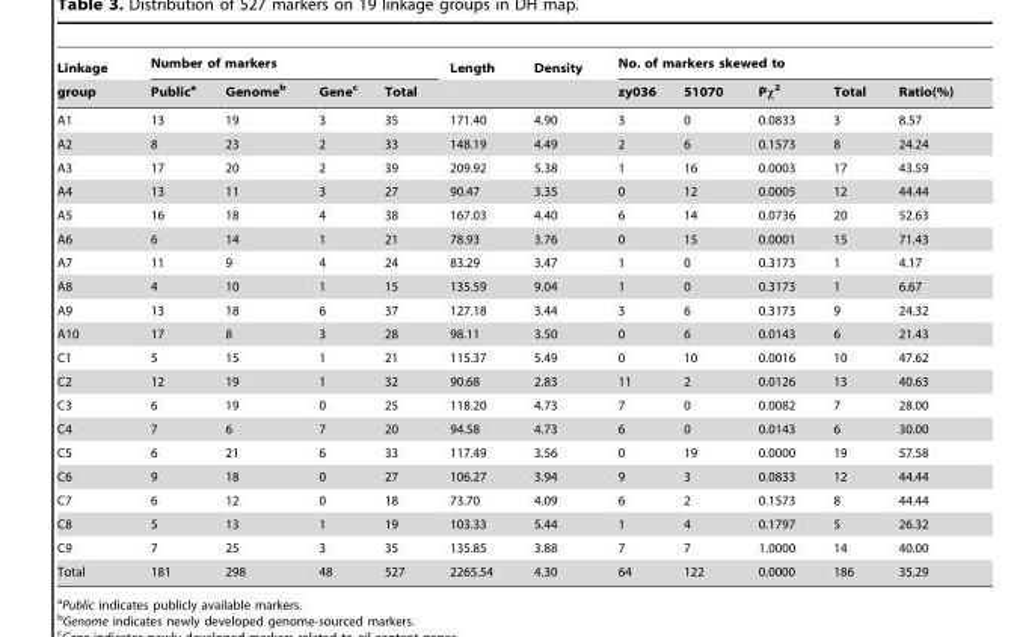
<table><thead><tr><td rowspan="2">Linkage group</td><td colspan="4">Number of markers</td><td rowspan="2">Length</td><td rowspan="2">Density</td><td colspan="5">No. of markers skewed to</td></tr><tr><td>Public<sup>a</sup></td><td>Genome<sup>b</sup></td><td>Gene<sup>c</sup></td><td>Total</td><td>zy036</td><td>51070</td><td>Pχ<sup>2</sup></td><td>Total</td><td>Ratio(%)</td></tr></thead><tbody><tr><td>A1</td><td>13</td><td>19</td><td>3</td><td>35</td><td>171.40</td><td>4.90</td><td>3</td><td>0</td><td>0.0833</td><td>3</td><td>8.57</td></tr><tr><td>A2</td><td>8</td><td>23</td><td>2</td><td>33</td><td>148.19</td><td>4.49</td><td>2</td><td>6</td><td>0.1573</td><td>8</td><td>24.24</td></tr><tr><td>A3</td><td>17</td><td>20</td><td>2</td><td>39</td><td>209.92</td><td>5.38</td><td>1</td><td>16</td><td>0.0003</td><td>17</td><td>43.59</td></tr><tr><td>A4</td><td>13</td><td>11</td><td>3</td><td>27</td><td>90.47</td><td>3.35</td><td>0</td><td>12</td><td>0.0005</td><td>12</td><td>44.44</td></tr><tr><td>A5</td><td>16</td><td>18</td><td>4</td><td>38</td><td>167.03</td><td>4.40</td><td>6</td><td>14</td><td>0.0736</td><td>20</td><td>52.63</td></tr><tr><td>A6</td><td>6</td><td>14</td><td>1</td><td>21</td><td>78.93</td><td>3.76</td><td>0</td><td>15</td><td>0.0001</td><td>15</td><td>71.43</td></tr><tr><td>A7</td><td>11</td><td>9</td><td>4</td><td>24</td><td>83.29</td><td>3.47</td><td>1</td><td>0</td><td>0.3173</td><td>1</td><td>4.17</td></tr><tr><td>A8</td><td>4</td><td>10</td><td>1</td><td>15</td><td>135.59</td><td>9.04</td><td>1</td><td>0</td><td>0.3173</td><td>1</td><td>6.67</td></tr><tr><td>A9</td><td>13</td><td>18</td><td>6</td><td>37</td><td>127.18</td><td>3.44</td><td>3</td><td>6</td><td>0.3173</td><td>9</td><td>24.32</td></tr><tr><td>A10</td><td>17</td><td>8</td><td>3</td><td>28</td><td>98.11</td><td>3.50</td><td>0</td><td>6</td><td>0.0143</td><td>6</td><td>21.43</td></tr><tr><td>C1</td><td>5</td><td>15</td><td>1</td><td>21</td><td>115.37</td><td>5.49</td><td>0</td><td>10</td><td>0.0016</td><td>10</td><td>47.62</td></tr><tr><td>C2</td><td>12</td><td>19</td><td>1</td><td>32</td><td>90.68</td><td>2.83</td><td>11</td><td>2</td><td>0.0126</td><td>13</td><td>40.63</td></tr><tr><td>C3</td><td>6</td><td>19</td><td>0</td><td>25</td><td>118.20</td><td>4.73</td><td>7</td><td>0</td><td>0.0082</td><td>7</td><td>28.00</td></tr><tr><td>C4</td><td>7</td><td>6</td><td>7</td><td>20</td><td>94.58</td><td>4.73</td><td>6</td><td>0</td><td>0.0143</td><td>6</td><td>30.00</td></tr><tr><td>C5</td><td>6</td><td>21</td><td>6</td><td>33</td><td>117.49</td><td>3.56</td><td>0</td><td>19</td><td>0.0000</td><td>19</td><td>57.58</td></tr><tr><td>C6</td><td>9</td><td>18</td><td>0</td><td>27</td><td>106.27</td><td>3.94</td><td>9</td><td>3</td><td>0.0833</td><td>12</td><td>44.44</td></tr><tr><td>C7</td><td>6</td><td>12</td><td>0</td><td>18</td><td>73.70</td><td>4.09</td><td>6</td><td>2</td><td>0.1573</td><td>8</td><td>44.44</td></tr><tr><td>C8</td><td>5</td><td>13</td><td>1</td><td>19</td><td>103.33</td><td>5.44</td><td>1</td><td>4</td><td>0.1797</td><td>5</td><td>26.32</td></tr><tr><td>C9</td><td>7</td><td>25</td><td>3</td><td>35</td><td>135.85</td><td>3.88</td><td>7</td><td>7</td><td>1.0000</td><td>14</td><td>40.00</td></tr><tr><td>Total</td><td>181</td><td>298</td><td>48</td><td>527</td><td>2265.54</td><td>4.30</td><td>64</td><td>122</td><td>0.0000</td><td>186</td><td>35.29</td></tr></tbody></table>